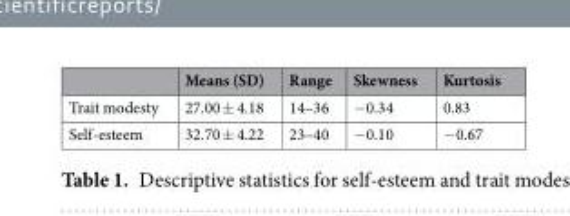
<table><thead><tr><td></td><td>Means (SD)</td><td>Range</td><td>Skewness</td><td>Kurtosis</td></tr></thead><tbody><tr><td>Trait modesty</td><td>27.00 ± 4.18</td><td>14–36</td><td>−0.34</td><td>0.83</td></tr><tr><td>Self-esteem</td><td>32.70 ± 4.22</td><td>23–40</td><td>−0.10</td><td>−0.67</td></tr></tbody></table>